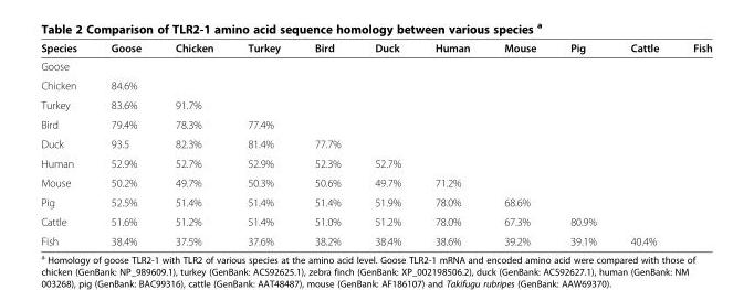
<table><thead><tr><td>Species</td><td>Goose</td><td>Chicken</td><td>Turkey</td><td>Bird</td><td>Duck</td><td>Human</td><td>Mouse</td><td>Pig</td><td>Cattle</td><td>Fish</td></tr></thead><tbody><tr><td colspan="11">Goose</td></tr><tr><td>Chicken</td><td>84.6%</td><td></td><td></td><td></td><td></td><td></td><td></td><td></td><td></td><td></td></tr><tr><td>Turkey</td><td>83.6%</td><td>91.7%</td><td></td><td></td><td></td><td></td><td></td><td></td><td></td><td></td></tr><tr><td>Bird</td><td>79.4%</td><td>78.3%</td><td>77.4%</td><td></td><td></td><td></td><td></td><td></td><td></td><td></td></tr><tr><td>Duck</td><td>93.5</td><td>82.3%</td><td>81.4%</td><td>77.7%</td><td></td><td></td><td></td><td></td><td></td><td></td></tr><tr><td>Human</td><td>52.9%</td><td>52.7%</td><td>52.9%</td><td>52.3%</td><td>52.7%</td><td></td><td></td><td></td><td></td><td></td></tr><tr><td>Mouse</td><td>50.2%</td><td>49.7%</td><td>50.3%</td><td>50.6%</td><td>49.7%</td><td>71.2%</td><td></td><td></td><td></td><td></td></tr><tr><td>Pig</td><td>52.5%</td><td>51.4%</td><td>51.4%</td><td>51.4%</td><td>51.9%</td><td>78.0%</td><td>68.6%</td><td></td><td></td><td></td></tr><tr><td>Cattle</td><td>51.6%</td><td>51.2%</td><td>51.4%</td><td>51.0%</td><td>51.2%</td><td>78.0%</td><td>67.3%</td><td>80.9%</td><td></td><td></td></tr><tr><td>Fish</td><td>38.4%</td><td>37.5%</td><td>37.6%</td><td>38.2%</td><td>38.4%</td><td>38.6%</td><td>39.2%</td><td>39.1%</td><td>40.4%</td><td></td></tr></tbody></table>